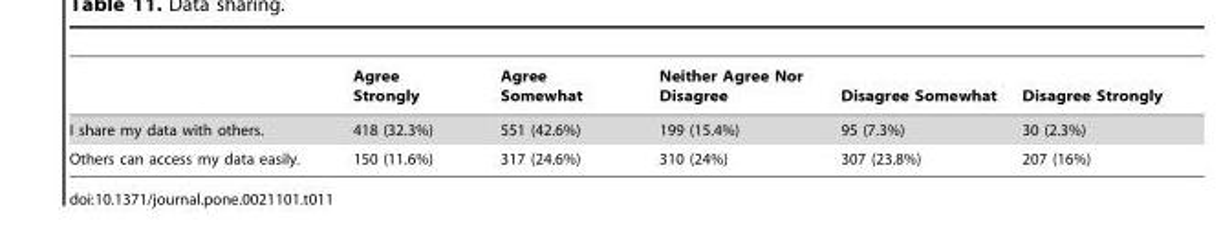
<table><thead><tr><td></td><td>Agree Strongly</td><td>Agree Somewhat</td><td>Neither Agree Nor Disagree</td><td>Disagree Somewhat</td><td>Disagree Strongly</td></tr></thead><tbody><tr><td>I share my data with others.</td><td>418 (32.3%)</td><td>551 (42.6%)</td><td>199 (15.4%)</td><td>95 (7.3%)</td><td>30 (2.3%)</td></tr><tr><td>Others can access my data easily.</td><td>150 (11.6%)</td><td>317 (24.6%)</td><td>310 (24%)</td><td>307 (23.8%)</td><td>207 (16%)</td></tr></tbody></table>